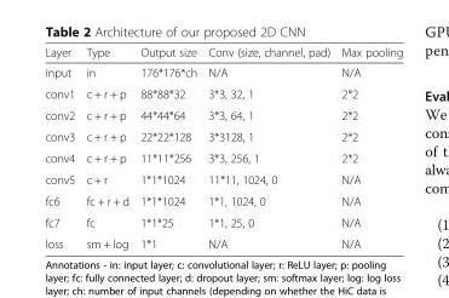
<table><thead><tr><td>Layer</td><td>Type</td><td>Output size</td><td>Conv (size, channel, pad)</td><td>Max pooling</td></tr></thead><tbody><tr><td>input</td><td>in</td><td>176*176*ch</td><td>N/A</td><td>N/A</td></tr><tr><td>conv1</td><td>c + r + p</td><td>88*88*32</td><td>3*3, 32, 1</td><td>2*2</td></tr><tr><td>conv2</td><td>c + r + p</td><td>44*44*64</td><td>3*3, 64, 1</td><td>2*2</td></tr><tr><td>conv3</td><td>c + r + p</td><td>22*22*128</td><td>3*3128, 1</td><td>2*2</td></tr><tr><td>conv4</td><td>c + r + p</td><td>11*11*256</td><td>3*3, 256, 1</td><td>2*2</td></tr><tr><td>conv5</td><td>c + r</td><td>1*1*1024</td><td>11*11, 1024, 0</td><td>N/A</td></tr><tr><td>fc6</td><td>fc + r + d</td><td>1*1*1024</td><td>1*1, 1024, 0</td><td>N/A</td></tr><tr><td>fc7</td><td>fc</td><td>1*1*25</td><td>1*1, 25, 0</td><td>N/A</td></tr><tr><td>loss</td><td>sm + log</td><td>1*1</td><td>N/A</td><td>N/A</td></tr></tbody></table>